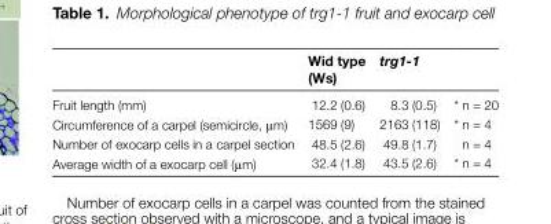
<table><thead><tr><td></td><td>Wid type (Ws)</td><td>trg1-1</td><td></td></tr></thead><tbody><tr><td>Fruit length (mm)</td><td>12.2 (0.6)</td><td>8.3 (0.5)</td><td>* n = 20</td></tr><tr><td>Circumference of a carpel (semicircle, μm)</td><td>1569 (9)</td><td>2163 (118)</td><td>* n = 4</td></tr><tr><td>Number of exocarp cells in a carpel section</td><td>48.5 (2.6)</td><td>49.8 (1.7)</td><td>n = 4</td></tr><tr><td>Average width of a exocarp cell (μm)</td><td>32.4 (1.8)</td><td>43.5 (2.6)</td><td>* n = 4</td></tr></tbody></table>